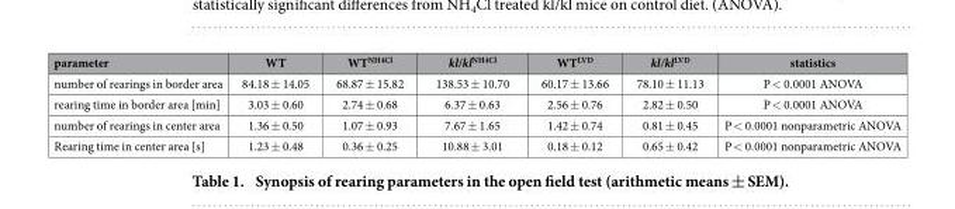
<table><thead><tr><td>parameter</td><td>WT</td><td>WT<sup>NH4Cl</sup></td><td>kl/kl<sup>NH4Cl</sup></td><td>WT<sup>LVD</sup></td><td>kl/kl<sup>LVD</sup></td><td>statistics</td></tr></thead><tbody><tr><td>number of rearings in border area</td><td>84.18 ± 14.05</td><td>68.87 ± 15.82</td><td>138.53 ± 10.70</td><td>60.17 ± 13.66</td><td>78.10 ± 11.13</td><td>P &lt; 0.0001 ANOVA</td></tr><tr><td>rearing time in border area [min]</td><td>3.03 ± 0.60</td><td>2.74 ± 0.68</td><td>6.37 ± 0.63</td><td>2.56 ± 0.76</td><td>2.82 ± 0.50</td><td>P &lt; 0.0001 ANOVA</td></tr><tr><td>number of rearings in center area</td><td>1.36 ± 0.50</td><td>1.07 ± 0.93</td><td>7.67 ± 1.65</td><td>1.42 ± 0.74</td><td>0.81 ± 0.45</td><td>P &lt; 0.0001 nonparametric ANOVA</td></tr><tr><td>Rearing time in center area [s]</td><td>1.23 ± 0.48</td><td>0.36 ± 0.25</td><td>10.88 ± 3.01</td><td>0.18 ± 0.12</td><td>0.65 ± 0.42</td><td>P &lt; 0.0001 nonparametric ANOVA</td></tr></tbody></table>